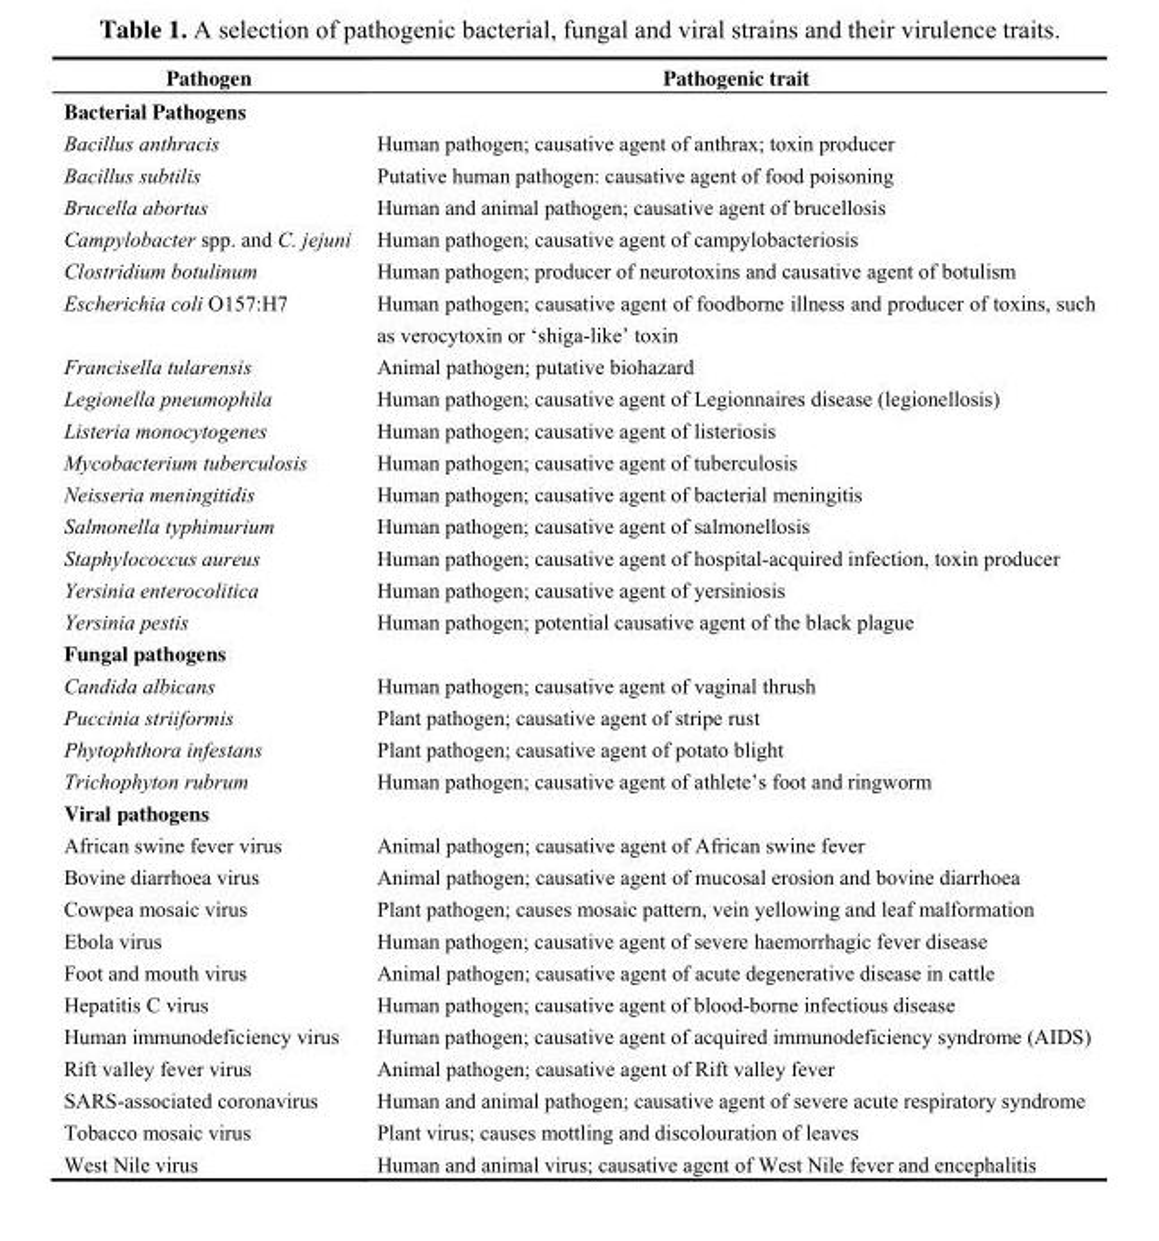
<table><thead><tr><td>Pathogen</td><td>Pathogenic trait</td></tr></thead><tbody><tr><td colspan="2">Bacterial Pathogens</td></tr><tr><td>Bacillus anthracis</td><td>Human pathogen; causative agent of anthrax; toxin producer</td></tr><tr><td>Bacillus subtilis</td><td>Putative human pathogen: causative agent of food poisoning</td></tr><tr><td>Brucella abortus</td><td>Human and animal pathogen; causative agent of brucellosis</td></tr><tr><td>Campylobacter spp. and C. jejuni</td><td>Human pathogen; causative agent of campylobacteriosis</td></tr><tr><td>Clostridium botulinum</td><td>Human pathogen; producer of neurotoxins and causative agent of botulism</td></tr><tr><td>Escherichia coli O157:H7</td><td>Human pathogen; causative agent of foodborne illness and producer of toxins, such as verocytoxin or ‘shiga-like’ toxin</td></tr><tr><td>Francisella tularensis</td><td>Animal pathogen; putative biohazard</td></tr><tr><td>Legionella pneumophila</td><td>Human pathogen; causative agent of Legionnaires disease (legionellosis)</td></tr><tr><td>Listeria monocytogenes</td><td>Human pathogen; causative agent of listeriosis</td></tr><tr><td>Mycobacterium tuberculosis</td><td>Human pathogen; causative agent of tuberculosis</td></tr><tr><td>Neisseria meningitidis</td><td>Human pathogen; causative agent of bacterial meningitis</td></tr><tr><td>Salmonella typhimurium</td><td>Human pathogen; causative agent of salmonellosis</td></tr><tr><td>Staphylococcus aureus</td><td>Human pathogen; causative agent of hospital-acquired infection, toxin producer</td></tr><tr><td>Yersinia enterocolitica</td><td>Human pathogen; causative agent of yersiniosis</td></tr><tr><td>Yersinia pestis</td><td>Human pathogen; potential causative agent of the black plague</td></tr><tr><td colspan="2">Fungal pathogens</td></tr><tr><td>Candida albicans</td><td>Human pathogen; causative agent of vaginal thrush</td></tr><tr><td>Puccinia striiformis</td><td>Plant pathogen; causative agent of stripe rust</td></tr><tr><td>Phytophthora infestans</td><td>Plant pathogen; causative agent of potato blight</td></tr><tr><td>Trichophyton rubrum</td><td>Human pathogen; causative agent of athlete’s foot and ringworm</td></tr><tr><td colspan="2">Viral pathogens</td></tr><tr><td>African swine fever virus</td><td>Animal pathogen; causative agent of African swine fever</td></tr><tr><td>Bovine diarrhoea virus</td><td>Animal pathogen; causative agent of mucosal erosion and bovine diarrhoea</td></tr><tr><td>Cowpea mosaic virus</td><td>Plant pathogen; causes mosaic pattern, vein yellowing and leaf malformation</td></tr><tr><td>Ebola virus</td><td>Human pathogen; causative agent of severe haemorrhagic fever disease</td></tr><tr><td>Foot and mouth virus</td><td>Animal pathogen; causative agent of acute degenerative disease in cattle</td></tr><tr><td>Hepatitis C virus</td><td>Human pathogen; causative agent of blood-borne infectious disease</td></tr><tr><td>Human immunodeficiency virus</td><td>Human pathogen; causative agent of acquired immunodeficiency syndrome (AIDS)</td></tr><tr><td>Rift valley fever virus</td><td>Animal pathogen; causative agent of Rift valley fever</td></tr><tr><td>SARS-associated coronavirus</td><td>Human and animal pathogen; causative agent of severe acute respiratory syndrome</td></tr><tr><td>Tobacco mosaic virus</td><td>Plant virus; causes mottling and discolouration of leaves</td></tr><tr><td>West Nile virus</td><td>Human and animal virus; causative agent of West Nile fever and encephalitis</td></tr></tbody></table>